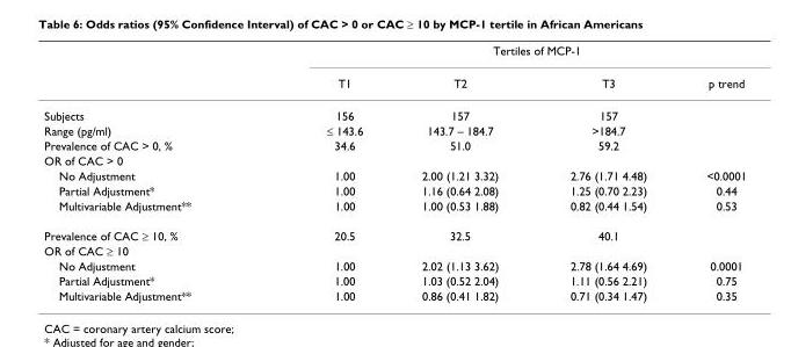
<table><thead><tr><td rowspan="2"></td><td colspan="4">Tertiles of MCP-1</td></tr><tr><td>T1</td><td>T2</td><td>T3</td><td>p trend</td></tr></thead><tbody><tr><td>Subjects</td><td>156</td><td>157</td><td>157</td><td></td></tr><tr><td>Range (pg/ml)</td><td>≤ 143.6</td><td>143.7 – 184.7</td><td>&gt;184.7</td><td></td></tr><tr><td>Prevalence of CAC &gt; 0, %</td><td>34.6</td><td>51.0</td><td>59.2</td><td></td></tr><tr><td colspan="5">OR of CAC &gt; 0</td></tr><tr><td>No Adjustment</td><td>1.00</td><td>2.00 (1.21 3.32)</td><td>2.76 (1.71 4.48)</td><td>&lt;0.0001</td></tr><tr><td>Partial Adjustment*</td><td>1.00</td><td>1.16 (0.64 2.08)</td><td>1.25 (0.70 2.23)</td><td>0.44</td></tr><tr><td>Multivariable Adjustment**</td><td>1.00</td><td>1.00 (0.53 1.88)</td><td>0.82 (0.44 1.54)</td><td>0.53</td></tr><tr><td>Prevalence of CAC ≥ 10, %</td><td>20.5</td><td>32.5</td><td>40.1</td><td></td></tr><tr><td colspan="5">OR of CAC ≥ 10</td></tr><tr><td>No Adjustment</td><td>1.00</td><td>2.02 (1.13 3.62)</td><td>2.78 (1.64 4.69)</td><td>0.0001</td></tr><tr><td>Partial Adjustment*</td><td>1.00</td><td>1.03 (0.52 2.04)</td><td>1.11 (0.56 2.21)</td><td>0.75</td></tr><tr><td>Multivariable Adjustment**</td><td>1.00</td><td>0.86 (0.41 1.82)</td><td>0.71 (0.34 1.47)</td><td>0.35</td></tr></tbody></table>